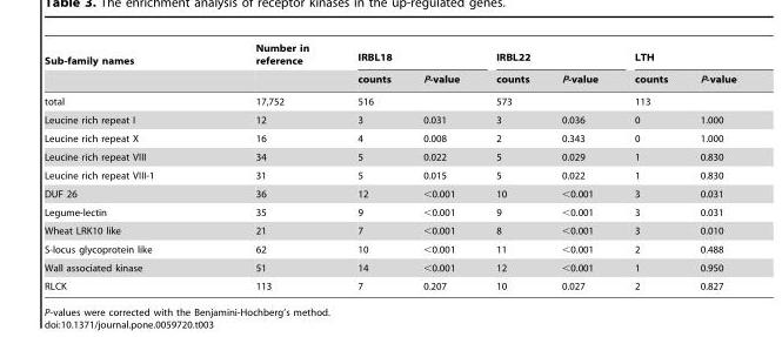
<table><thead><tr><td rowspan="2">Sub-family names</td><td rowspan="2">Number in reference</td><td colspan="2">IRBL18</td><td colspan="2">IRBL22</td><td colspan="2">LTH</td></tr><tr><td>counts</td><td>P-value</td><td>counts</td><td>P-value</td><td>counts</td><td>P-value</td></tr></thead><tbody><tr><td>total</td><td>17,752</td><td>516</td><td></td><td>573</td><td></td><td>113</td><td></td></tr><tr><td>Leucine rich repeat I</td><td>12</td><td>3</td><td>0.031</td><td>3</td><td>0.036</td><td>0</td><td>1.000</td></tr><tr><td>Leucine rich repeat X</td><td>16</td><td>4</td><td>0.008</td><td>2</td><td>0.343</td><td>0</td><td>1.000</td></tr><tr><td>Leucine rich repeat VIII</td><td>34</td><td>5</td><td>0.022</td><td>5</td><td>0.029</td><td>1</td><td>0.830</td></tr><tr><td>Leucine rich repeat VIII-1</td><td>31</td><td>5</td><td>0.015</td><td>5</td><td>0.022</td><td>1</td><td>0.830</td></tr><tr><td>DUF 26</td><td>36</td><td>12</td><td>&lt;0.001</td><td>10</td><td>&lt;0.001</td><td>3</td><td>0.031</td></tr><tr><td>Legume-lectin</td><td>35</td><td>9</td><td>&lt;0.001</td><td>9</td><td>&lt;0.001</td><td>3</td><td>0.031</td></tr><tr><td>Wheat LRK10 like</td><td>21</td><td>7</td><td>&lt;0.001</td><td>8</td><td>&lt;0.001</td><td>3</td><td>0.010</td></tr><tr><td>S-locus glycoprotein like</td><td>62</td><td>10</td><td>&lt;0.001</td><td>11</td><td>&lt;0.001</td><td>2</td><td>0.488</td></tr><tr><td>Wall associated kinase</td><td>51</td><td>14</td><td>&lt;0.001</td><td>12</td><td>&lt;0.001</td><td>1</td><td>0.950</td></tr><tr><td>RLCK</td><td>113</td><td>7</td><td>0.207</td><td>10</td><td>0.027</td><td>2</td><td>0.827</td></tr></tbody></table>